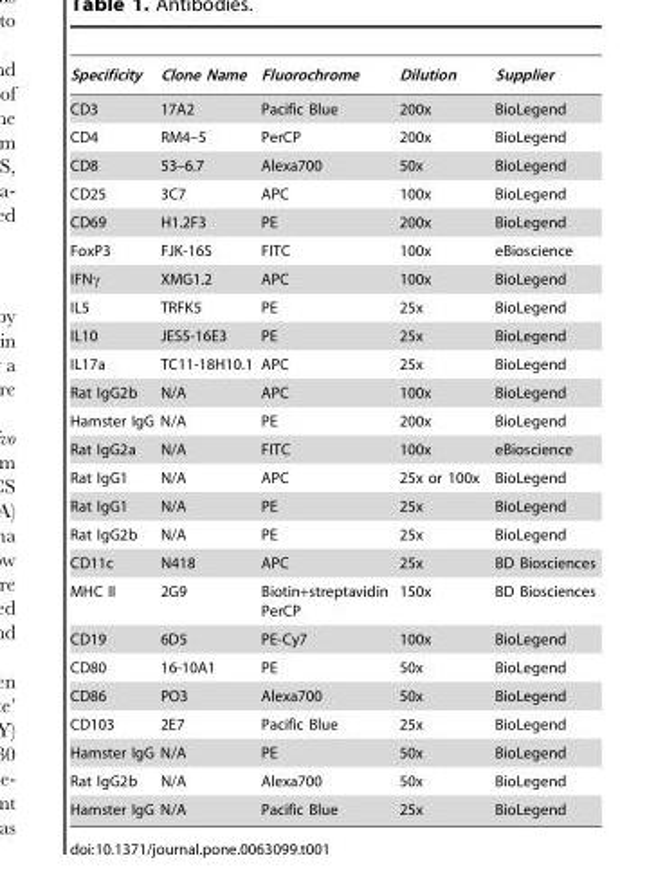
<table><thead><tr><td>Specificity</td><td>Clone Name</td><td>Fluorochrome</td><td>Dilution</td><td>Supplier</td></tr></thead><tbody><tr><td>CD3</td><td>17A2</td><td>Pacific Blue</td><td>200x</td><td>BioLegend</td></tr><tr><td>CD4</td><td>RM4–5</td><td>PerCP</td><td>200x</td><td>BioLegend</td></tr><tr><td>CD8</td><td>53–6.7</td><td>Alexa700</td><td>50x</td><td>BioLegend</td></tr><tr><td>CD25</td><td>3C7</td><td>APC</td><td>100x</td><td>BioLegend</td></tr><tr><td>CD69</td><td>H1.2F3</td><td>PE</td><td>200x</td><td>BioLegend</td></tr><tr><td>FoxP3</td><td>FJK-16S</td><td>FITC</td><td>100x</td><td>eBioscience</td></tr><tr><td>IFNγ</td><td>XMG1.2</td><td>APC</td><td>100x</td><td>BioLegend</td></tr><tr><td>IL5</td><td>TRFK5</td><td>PE</td><td>25x</td><td>BioLegend</td></tr><tr><td>IL10</td><td>JES5-16E3</td><td>PE</td><td>25x</td><td>BioLegend</td></tr><tr><td>IL17a</td><td>TC11-18H10.1</td><td>APC</td><td>25x</td><td>BioLegend</td></tr><tr><td>Rat IgG2b</td><td>N/A</td><td>APC</td><td>100x</td><td>BioLegend</td></tr><tr><td>Hamster IgG</td><td>N/A</td><td>PE</td><td>200x</td><td>BioLegend</td></tr><tr><td>Rat IgG2a</td><td>N/A</td><td>FITC</td><td>100x</td><td>eBioscience</td></tr><tr><td>Rat IgG1</td><td>N/A</td><td>APC</td><td>25x or 100x</td><td>BioLegend</td></tr><tr><td>Rat IgG1</td><td>N/A</td><td>PE</td><td>25x</td><td>BioLegend</td></tr><tr><td>Rat IgG2b</td><td>N/A</td><td>PE</td><td>25x</td><td>BioLegend</td></tr><tr><td>CD11c</td><td>N418</td><td>APC</td><td>25x</td><td>BD Biosciences</td></tr><tr><td>MHC II</td><td>2G9</td><td>Biotin+streptavidin PerCP</td><td>150x</td><td>BD Biosciences</td></tr><tr><td>CD19</td><td>6D5</td><td>PE-Cy7</td><td>100x</td><td>BioLegend</td></tr><tr><td>CD80</td><td>16-10A1</td><td>PE</td><td>50x</td><td>BioLegend</td></tr><tr><td>CD86</td><td>PO3</td><td>Alexa700</td><td>50x</td><td>BioLegend</td></tr><tr><td>CD103</td><td>2E7</td><td>Pacific Blue</td><td>25x</td><td>BioLegend</td></tr><tr><td>Hamster IgG</td><td>N/A</td><td>PE</td><td>50x</td><td>BioLegend</td></tr><tr><td>Rat IgG2b</td><td>N/A</td><td>Alexa700</td><td>50x</td><td>BioLegend</td></tr><tr><td>Hamster IgG</td><td>N/A</td><td>Pacific Blue</td><td>25x</td><td>BioLegend</td></tr></tbody></table>